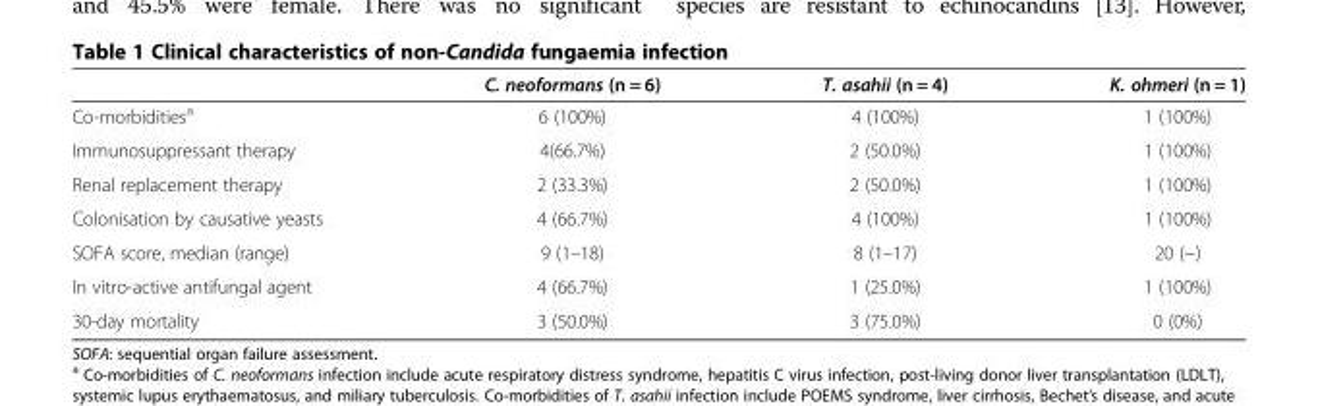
<table><thead><tr><td></td><td>C. neoformans (n = 6)</td><td>T. asahii (n = 4)</td><td>K. ohmeri (n = 1)</td></tr></thead><tbody><tr><td>Co-morbidities<sup>a</sup></td><td>6 (100%)</td><td>4 (100%)</td><td>1 (100%)</td></tr><tr><td>Immunosuppressant therapy</td><td>4(66.7%)</td><td>2 (50.0%)</td><td>1 (100%)</td></tr><tr><td>Renal replacement therapy</td><td>2 (33.3%)</td><td>2 (50.0%)</td><td>1 (100%)</td></tr><tr><td>Colonisation by causative yeasts</td><td>4 (66.7%)</td><td>4 (100%)</td><td>1 (100%)</td></tr><tr><td>SOFA score, median (range)</td><td>9 (1–18)</td><td>8 (1–17)</td><td>20 (−)</td></tr><tr><td>In vitro-active antifungal agent</td><td>4 (66.7%)</td><td>1 (25.0%)</td><td>1 (100%)</td></tr><tr><td>30-day mortality</td><td>3 (50.0%)</td><td>3 (75.0%)</td><td>0 (0%)</td></tr></tbody></table>